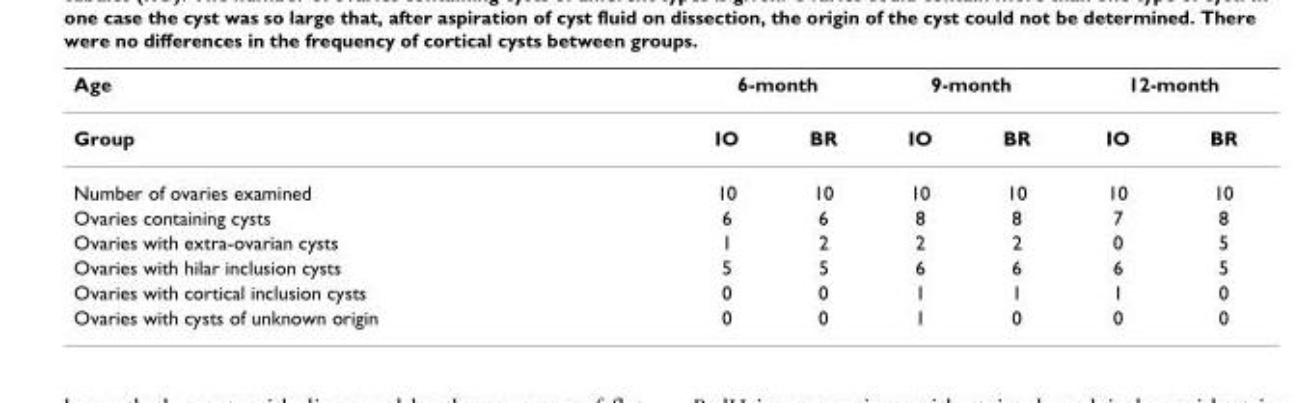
<table><thead><tr><td rowspan="2">Age Group</td><td colspan="2">6-month</td><td colspan="2">9-month</td><td colspan="2">12-month</td></tr><tr><td>IO</td><td>BR</td><td>IO</td><td>BR</td><td>IO</td><td>BR</td></tr></thead><tbody><tr><td>Number of ovaries examined</td><td>10</td><td>10</td><td>10</td><td>10</td><td>10</td><td>10</td></tr><tr><td>Ovaries containing cysts</td><td>6</td><td>6</td><td>8</td><td>8</td><td>7</td><td>8</td></tr><tr><td>Ovaries with extra-ovarian cysts</td><td>1</td><td>2</td><td>2</td><td>2</td><td>0</td><td>5</td></tr><tr><td>Ovaries with hilar inclusion cysts</td><td>5</td><td>5</td><td>6</td><td>6</td><td>6</td><td>5</td></tr><tr><td>Ovaries with cortical inclusion cysts</td><td>0</td><td>0</td><td>1</td><td>1</td><td>1</td><td>0</td></tr><tr><td>Ovaries with cysts of unknown origin</td><td>0</td><td>0</td><td>1</td><td>0</td><td>0</td><td>0</td></tr></tbody></table>